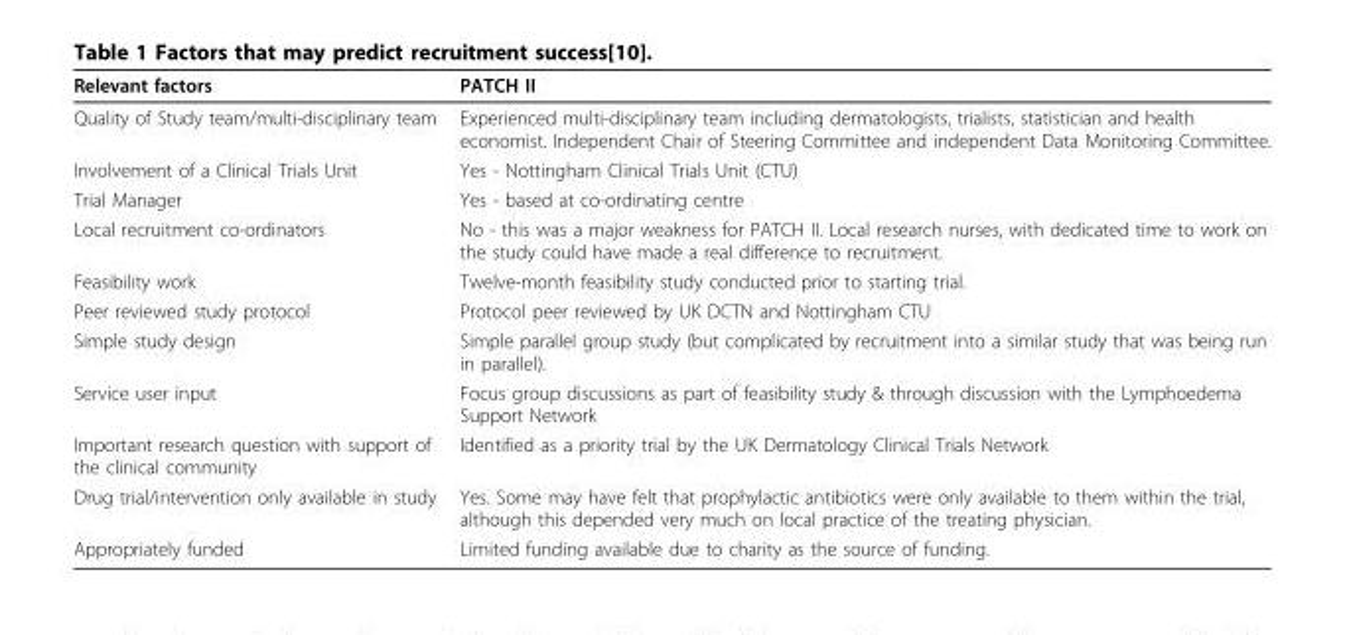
<table><thead><tr><td>Relevant factors</td><td>PATCH II</td></tr></thead><tbody><tr><td>Quality of Study team/multi-disciplinary team</td><td>Experienced multi-disciplinary team including dermatologists, trialists, statistician and health economist. Independent Chair of Steering Committee and independent Data Monitoring Committee.</td></tr><tr><td>Involvement of a Clinical Trials Unit</td><td>Yes - Nottingham Clinical Trials Unit (CTU)</td></tr><tr><td>Trial Manager</td><td>Yes - based at co-ordinating centre</td></tr><tr><td>Local recruitment co-ordinators</td><td>No - this was a major weakness for PATCH II. Local research nurses, with dedicated time to work on the study could have made a real difference to recruitment.</td></tr><tr><td>Feasibility work</td><td>Twelve-month feasibility study conducted prior to starting trial.</td></tr><tr><td>Peer reviewed study protocol</td><td>Protocol peer reviewed by UK DCTN and Nottingham CTU</td></tr><tr><td>Simple study design</td><td>Simple parallel group study (but complicated by recruitment into a similar study that was being run in parallel).</td></tr><tr><td>Service user input</td><td>Focus group discussions as part of feasibility study &amp; through discussion with the Lymphoedema Support Network</td></tr><tr><td>Important research question with support of the clinical community</td><td>Identified as a priority trial by the UK Dermatology Clinical Trials Network</td></tr><tr><td>Drug trial/intervention only available in study</td><td>Yes. Some may have felt that prophylactic antibiotics were only available to them within the trial, although this depended very much on local practice of the treating physician.</td></tr><tr><td>Appropriately funded</td><td>Limited funding available due to charity as the source of funding.</td></tr></tbody></table>